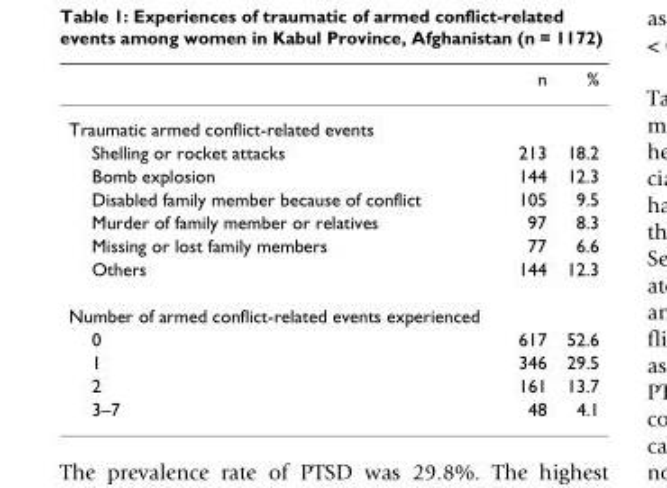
<table><thead><tr><td></td><td>n</td><td>%</td></tr></thead><tbody><tr><td colspan="3">Traumatic armed conflict-related events</td></tr><tr><td>Shelling or rocket attacks</td><td>213</td><td>18.2</td></tr><tr><td>Bomb explosion</td><td>144</td><td>12.3</td></tr><tr><td>Disabled family member because of conflict</td><td>105</td><td>9.5</td></tr><tr><td>Murder of family member or relatives</td><td>97</td><td>8.3</td></tr><tr><td>Missing or lost family members</td><td>77</td><td>6.6</td></tr><tr><td>Others</td><td>144</td><td>12.3</td></tr><tr><td colspan="3">Number of armed conflict-related events experienced</td></tr><tr><td>0</td><td>617</td><td>52.6</td></tr><tr><td>1</td><td>346</td><td>29.5</td></tr><tr><td>2</td><td>161</td><td>13.7</td></tr><tr><td>3–7</td><td>48</td><td>4.1</td></tr></tbody></table>